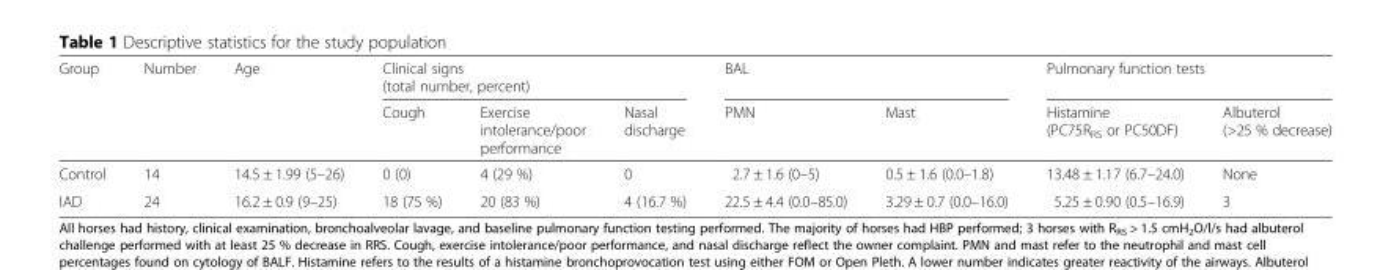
<table><thead><tr><td rowspan="2">Group</td><td rowspan="2">Number</td><td rowspan="2">Age</td><td colspan="3">Clinical signs (total number, percent)</td><td colspan="2">BAL</td><td colspan="2">Pulmonary function tests</td></tr><tr><td>Cough</td><td>Exercise intolerance/poor performance</td><td>Nasal discharge</td><td>PMN</td><td>Mast</td><td>Histamine (PC75R<sub>RS</sub> or PC50DF)</td><td>Albuterol (&gt;25 % decrease)</td></tr></thead><tbody><tr><td>Control</td><td>14</td><td>14.5 ± 1.99 (5–26)</td><td>0 (0)</td><td>4 (29 %)</td><td>0</td><td>2.7 ± 1.6 (0–5)</td><td>0.5 ± 1.6 (0.0–1.8)</td><td>13.48 ± 1.17 (6.7–24.0)</td><td>None</td></tr><tr><td>IAD</td><td>24</td><td>16.2 ± 0.9 (9–25)</td><td>18 (75 %)</td><td>20 (83 %)</td><td>4 (16.7 %)</td><td>22.5 ± 4.4 (0.0–85.0)</td><td>3.29 ± 0.7 (0.0–16.0)</td><td>5.25 ± 0.90 (0.5–16.9)</td><td>3</td></tr></tbody></table>